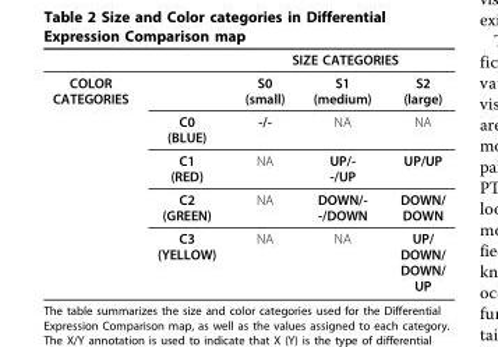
<table><thead><tr><td rowspan="2">COLOR CATEGORIES</td><td rowspan="2"></td><td colspan="3">SIZE CATEGORIES</td></tr><tr><td>S0 (small)</td><td>S1 (medium)</td><td>S2 (large)</td></tr></thead><tbody><tr><td></td><td>C0 (BLUE)</td><td>-/-</td><td>NA</td><td>NA</td></tr><tr><td></td><td>C1 (RED)</td><td>NA</td><td>UP/- -/UP</td><td>UP/UP</td></tr><tr><td></td><td>C2 (GREEN)</td><td>NA</td><td>DOWN/- -/DOWN</td><td>DOWN/ DOWN</td></tr><tr><td></td><td>C3 (YELLOW)</td><td>NA</td><td>NA</td><td>UP/ DOWN/ DOWN/ UP</td></tr></tbody></table>